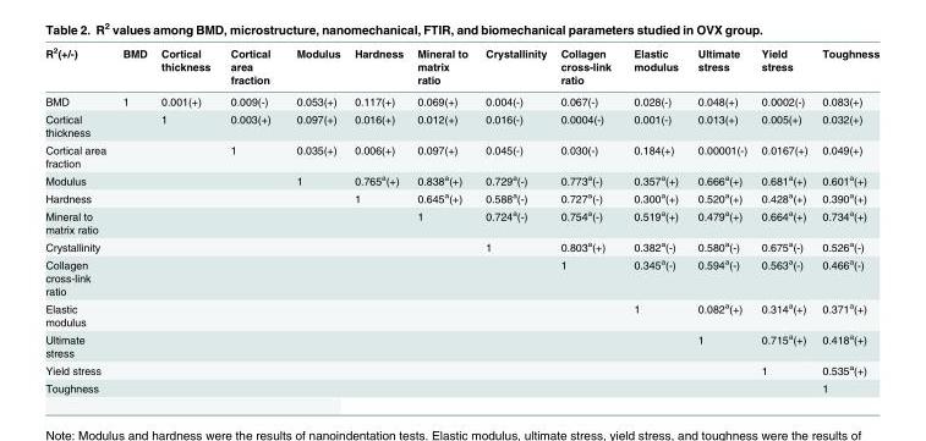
<table><thead><tr><td>R<sup>2</sup>(+/-)</td><td>BMD</td><td>Cortical thickness</td><td>Cortical area fraction</td><td>Modulus</td><td>Hardness</td><td>Mineral to matrix ratio</td><td>Crystallinity</td><td>Collagen cross-link ratio</td><td>Elastic modulus</td><td>Ultimate stress</td><td>Yield stress</td><td>Toughness</td></tr></thead><tbody><tr><td>BMD</td><td>1</td><td>0.001(+)</td><td>0.009(-)</td><td>0.053(+)</td><td>0.117(+)</td><td>0.069(+)</td><td>0.004(-)</td><td>0.067(-)</td><td>0.028(-)</td><td>0.048(+)</td><td>0.0002(-)</td><td>0.083(+)</td></tr><tr><td>Cortical thickness</td><td></td><td>1</td><td>0.003(+)</td><td>0.097(+)</td><td>0.016(+)</td><td>0.012(+)</td><td>0.016(-)</td><td>0.0004(-)</td><td>0.001(-)</td><td>0.013(+)</td><td>0.005(+)</td><td>0.032(+)</td></tr><tr><td>Cortical area fraction</td><td></td><td></td><td>1</td><td>0.035(+)</td><td>0.006(+)</td><td>0.097(+)</td><td>0.045(-)</td><td>0.030(-)</td><td>0.184(+)</td><td>0.00001(-)</td><td>0.0167(+)</td><td>0.049(+)</td></tr><tr><td>Modulus</td><td></td><td></td><td></td><td>1</td><td>0.765<sup>a</sup>(+)</td><td>0.838<sup>a</sup>(+)</td><td>0.729<sup>a</sup>(-)</td><td>0.773<sup>a</sup>(-)</td><td>0.357<sup>a</sup>(+)</td><td>0.666<sup>a</sup>(+)</td><td>0.681<sup>a</sup>(+)</td><td>0.601<sup>a</sup>(+)</td></tr><tr><td>Hardness</td><td></td><td></td><td></td><td></td><td>1</td><td>0.645<sup>a</sup>(+)</td><td>0.588<sup>a</sup>(-)</td><td>0.727<sup>a</sup>(-)</td><td>0.300<sup>a</sup>(+)</td><td>0.520<sup>a</sup>(+)</td><td>0.428<sup>a</sup>(+)</td><td>0.390<sup>a</sup>(+)</td></tr><tr><td>Mineral to matrix ratio</td><td></td><td></td><td></td><td></td><td></td><td>1</td><td>0.724<sup>a</sup>(-)</td><td>0.754<sup>a</sup>(-)</td><td>0.519<sup>a</sup>(+)</td><td>0.479<sup>a</sup>(+)</td><td>0.664<sup>a</sup>(+)</td><td>0.734<sup>a</sup>(+)</td></tr><tr><td>Crystallinity</td><td></td><td></td><td></td><td></td><td></td><td></td><td>1</td><td>0.803<sup>a</sup>(+)</td><td>0.382<sup>a</sup>(-)</td><td>0.580<sup>a</sup>(-)</td><td>0.675<sup>a</sup>(-)</td><td>0.526<sup>a</sup>(-)</td></tr><tr><td>Collagen cross-link ratio</td><td></td><td></td><td></td><td></td><td></td><td></td><td></td><td>1</td><td>0.345<sup>a</sup>(-)</td><td>0.594<sup>a</sup>(-)</td><td>0.563<sup>a</sup>(-)</td><td>0.466<sup>a</sup>(-)</td></tr><tr><td>Elastic modulus</td><td></td><td></td><td></td><td></td><td></td><td></td><td></td><td></td><td>1</td><td>0.082<sup>a</sup>(+)</td><td>0.314<sup>a</sup>(+)</td><td>0.371<sup>a</sup>(+)</td></tr><tr><td>Ultimate stress</td><td></td><td></td><td></td><td></td><td></td><td></td><td></td><td></td><td></td><td>1</td><td>0.715<sup>a</sup>(+)</td><td>0.418<sup>a</sup>(+)</td></tr><tr><td>Yield stress</td><td></td><td></td><td></td><td></td><td></td><td></td><td></td><td></td><td></td><td></td><td>1</td><td>0.535<sup>a</sup>(+)</td></tr><tr><td>Toughness</td><td></td><td></td><td></td><td></td><td></td><td></td><td></td><td></td><td></td><td></td><td></td><td>1</td></tr></tbody></table>